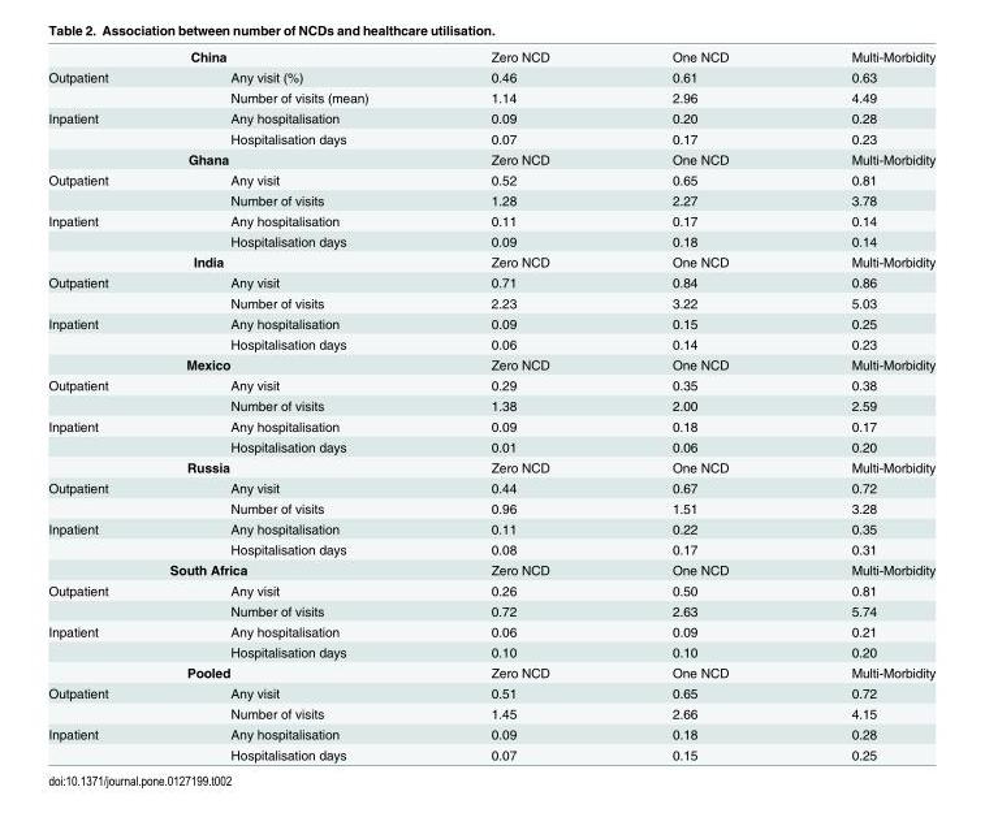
<table><tbody><tr><td colspan="2">China</td><td>Zero NCD</td><td>One NCD</td><td>Multi-Morbidity</td></tr><tr><td rowspan="2">Outpatient</td><td>Any visit (%)</td><td>0.46</td><td>0.61</td><td>0.63</td></tr><tr><td>Number of visits (mean)</td><td>1.14</td><td>2.96</td><td>4.49</td></tr><tr><td rowspan="2">Inpatient</td><td>Any hospitalisation</td><td>0.09</td><td>0.20</td><td>0.28</td></tr><tr><td>Hospitalisation days</td><td>0.07</td><td>0.17</td><td>0.23</td></tr><tr><td colspan="2">Ghana</td><td>Zero NCD</td><td>One NCD</td><td>Multi-Morbidity</td></tr><tr><td rowspan="2">Outpatient</td><td>Any visit</td><td>0.52</td><td>0.65</td><td>0.81</td></tr><tr><td>Number of visits</td><td>1.28</td><td>2.27</td><td>3.78</td></tr><tr><td rowspan="2">Inpatient</td><td>Any hospitalisation</td><td>0.11</td><td>0.17</td><td>0.14</td></tr><tr><td>Hospitalisation days</td><td>0.09</td><td>0.18</td><td>0.14</td></tr><tr><td colspan="2">India</td><td>Zero NCD</td><td>One NCD</td><td>Multi-Morbidity</td></tr><tr><td rowspan="2">Outpatient</td><td>Any visit</td><td>0.71</td><td>0.84</td><td>0.86</td></tr><tr><td>Number of visits</td><td>2.23</td><td>3.22</td><td>5.03</td></tr><tr><td rowspan="2">Inpatient</td><td>Any hospitalisation</td><td>0.09</td><td>0.15</td><td>0.25</td></tr><tr><td>Hospitalisation days</td><td>0.06</td><td>0.14</td><td>0.23</td></tr><tr><td colspan="2">Mexico</td><td>Zero NCD</td><td>One NCD</td><td>Multi-Morbidity</td></tr><tr><td rowspan="2">Outpatient</td><td>Any visit</td><td>0.29</td><td>0.35</td><td>0.38</td></tr><tr><td>Number of visits</td><td>1.38</td><td>2.00</td><td>2.59</td></tr><tr><td rowspan="2">Inpatient</td><td>Any hospitalisation</td><td>0.09</td><td>0.18</td><td>0.17</td></tr><tr><td>Hospitalisation days</td><td>0.01</td><td>0.06</td><td>0.20</td></tr><tr><td colspan="2">Russia</td><td>Zero NCD</td><td>One NCD</td><td>Multi-Morbidity</td></tr><tr><td rowspan="2">Outpatient</td><td>Any visit</td><td>0.44</td><td>0.67</td><td>0.72</td></tr><tr><td>Number of visits</td><td>0.96</td><td>1.51</td><td>3.28</td></tr><tr><td rowspan="2">Inpatient</td><td>Any hospitalisation</td><td>0.11</td><td>0.22</td><td>0.35</td></tr><tr><td>Hospitalisation days</td><td>0.08</td><td>0.17</td><td>0.31</td></tr><tr><td colspan="2">South Africa</td><td>Zero NCD</td><td>One NCD</td><td>Multi-Morbidity</td></tr><tr><td rowspan="2">Outpatient</td><td>Any visit</td><td>0.26</td><td>0.50</td><td>0.81</td></tr><tr><td>Number of visits</td><td>0.72</td><td>2.63</td><td>5.74</td></tr><tr><td rowspan="2">Inpatient</td><td>Any hospitalisation</td><td>0.06</td><td>0.09</td><td>0.21</td></tr><tr><td>Hospitalisation days</td><td>0.10</td><td>0.10</td><td>0.20</td></tr><tr><td colspan="2">Pooled</td><td>Zero NCD</td><td>One NCD</td><td>Multi-Morbidity</td></tr><tr><td rowspan="2">Outpatient</td><td>Any visit</td><td>0.51</td><td>0.65</td><td>0.72</td></tr><tr><td>Number of visits</td><td>1.45</td><td>2.66</td><td>4.15</td></tr><tr><td rowspan="2">Inpatient</td><td>Any hospitalisation</td><td>0.09</td><td>0.18</td><td>0.28</td></tr><tr><td>Hospitalisation days</td><td>0.07</td><td>0.15</td><td>0.25</td></tr></tbody></table>